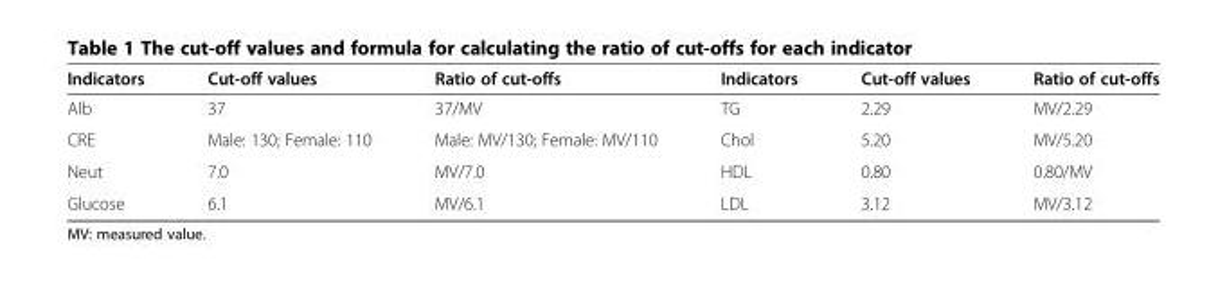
<table><thead><tr><td>Indicators</td><td>Cut-off values</td><td>Ratio of cut-offs</td><td>Indicators</td><td>Cut-off values</td><td>Ratio of cut-offs</td></tr></thead><tbody><tr><td>Alb</td><td>37</td><td>37/MV</td><td>TG</td><td>2.29</td><td>MV/2.29</td></tr><tr><td>CRE</td><td>Male: 130; Female: 110</td><td>Male: MV/130; Female: MV/110</td><td>Chol</td><td>5.20</td><td>MV/5.20</td></tr><tr><td>Neut</td><td>7.0</td><td>MV/7.0</td><td>HDL</td><td>0.80</td><td>0.80/MV</td></tr><tr><td>Glucose</td><td>6.1</td><td>MV/6.1</td><td>LDL</td><td>3.12</td><td>MV/3.12</td></tr></tbody></table>